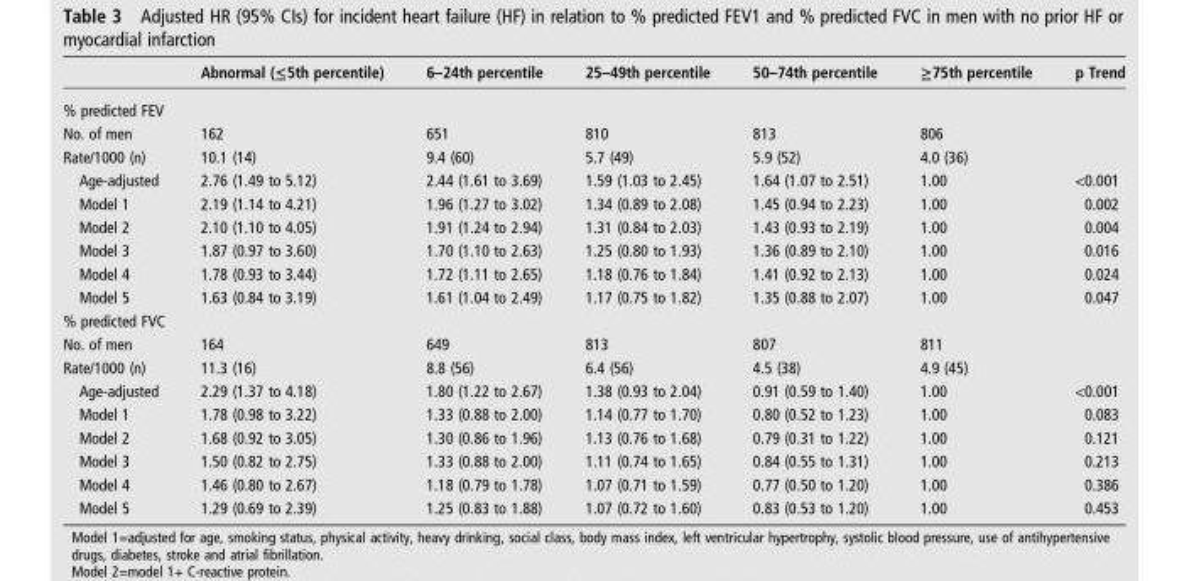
<table><thead><tr><td></td><td>Abnormal (≤5th percentile)</td><td>6–24th percentile</td><td>25–49th percentile</td><td>50–74th percentile</td><td>≥75th percentile</td><td>p Trend</td></tr></thead><tbody><tr><td colspan="7">% predicted FEV</td></tr><tr><td>No. of men</td><td>162</td><td>651</td><td>810</td><td>813</td><td>806</td><td></td></tr><tr><td>Rate/1000 (n)</td><td>10.1 (14)</td><td>9.4 (60)</td><td>5.7 (49)</td><td>5.9 (52)</td><td>4.0 (36)</td><td></td></tr><tr><td>Age-adjusted</td><td>2.76 (1.49 to 5.12)</td><td>2.44 (1.61 to 3.69)</td><td>1.59 (1.03 to 2.45)</td><td>1.64 (1.07 to 2.51)</td><td>1.00</td><td>&lt;0.001</td></tr><tr><td>Model 1</td><td>2.19 (1.14 to 4.21)</td><td>1.96 (1.27 to 3.02)</td><td>1.34 (0.89 to 2.08)</td><td>1.45 (0.94 to 2.23)</td><td>1.00</td><td>0.002</td></tr><tr><td>Model 2</td><td>2.10 (1.10 to 4.05)</td><td>1.91 (1.24 to 2.94)</td><td>1.31 (0.84 to 2.03)</td><td>1.43 (0.93 to 2.19)</td><td>1.00</td><td>0.004</td></tr><tr><td>Model 3</td><td>1.87 (0.97 to 3.60)</td><td>1.70 (1.10 to 2.63)</td><td>1.25 (0.80 to 1.93)</td><td>1.36 (0.89 to 2.10)</td><td>1.00</td><td>0.016</td></tr><tr><td>Model 4</td><td>1.78 (0.93 to 3.44)</td><td>1.72 (1.11 to 2.65)</td><td>1.18 (0.76 to 1.84)</td><td>1.41 (0.92 to 2.13)</td><td>1.00</td><td>0.024</td></tr><tr><td>Model 5</td><td>1.63 (0.84 to 3.19)</td><td>1.61 (1.04 to 2.49)</td><td>1.17 (0.75 to 1.82)</td><td>1.35 (0.88 to 2.07)</td><td>1.00</td><td>0.047</td></tr><tr><td colspan="7">% predicted FVC</td></tr><tr><td>No. of men</td><td>164</td><td>649</td><td>813</td><td>807</td><td>811</td><td></td></tr><tr><td>Rate/1000 (n)</td><td>11.3 (16)</td><td>8.8 (56)</td><td>6.4 (56)</td><td>4.5 (38)</td><td>4.9 (45)</td><td></td></tr><tr><td>Age-adjusted</td><td>2.29 (1.37 to 4.18)</td><td>1.80 (1.22 to 2.67)</td><td>1.38 (0.93 to 2.04)</td><td>0.91 (0.59 to 1.40)</td><td>1.00</td><td>&lt;0.001</td></tr><tr><td>Model 1</td><td>1.78 (0.98 to 3.22)</td><td>1.33 (0.88 to 2.00)</td><td>1.14 (0.77 to 1.70)</td><td>0.80 (0.52 to 1.23)</td><td>1.00</td><td>0.083</td></tr><tr><td>Model 2</td><td>1.68 (0.92 to 3.05)</td><td>1.30 (0.86 to 1.96)</td><td>1.13 (0.76 to 1.68)</td><td>0.79 (0.31 to 1.22)</td><td>1.00</td><td>0.121</td></tr><tr><td>Model 3</td><td>1.50 (0.82 to 2.75)</td><td>1.33 (0.88 to 2.00)</td><td>1.11 (0.74 to 1.65)</td><td>0.84 (0.55 to 1.31)</td><td>1.00</td><td>0.213</td></tr><tr><td>Model 4</td><td>1.46 (0.80 to 2.67)</td><td>1.18 (0.79 to 1.78)</td><td>1.07 (0.71 to 1.59)</td><td>0.77 (0.50 to 1.20)</td><td>1.00</td><td>0.386</td></tr><tr><td>Model 5</td><td>1.29 (0.69 to 2.39)</td><td>1.25 (0.83 to 1.88)</td><td>1.07 (0.72 to 1.60)</td><td>0.83 (0.53 to 1.20)</td><td>1.00</td><td>0.453</td></tr></tbody></table>